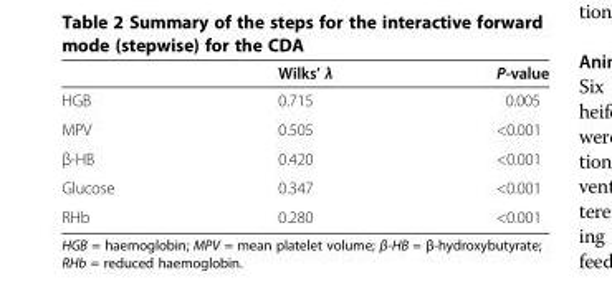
<table><thead><tr><td></td><td>Wilks’ λ</td><td>P-value</td></tr></thead><tbody><tr><td>HGB</td><td>0.715</td><td>0.005</td></tr><tr><td>MPV</td><td>0.505</td><td>&lt;0.001</td></tr><tr><td>β-HB</td><td>0.420</td><td>&lt;0.001</td></tr><tr><td>Glucose</td><td>0.347</td><td>&lt;0.001</td></tr><tr><td>RHb</td><td>0.280</td><td>&lt;0.001</td></tr></tbody></table>